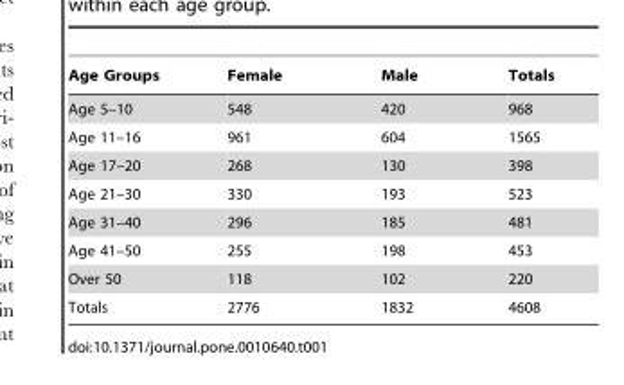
<table><thead><tr><td>Age Groups</td><td>Female</td><td>Male</td><td>Totals</td></tr></thead><tbody><tr><td>Age 5–10</td><td>548</td><td>420</td><td>968</td></tr><tr><td>Age 11–16</td><td>961</td><td>604</td><td>1565</td></tr><tr><td>Age 17–20</td><td>268</td><td>130</td><td>398</td></tr><tr><td>Age 21–30</td><td>330</td><td>193</td><td>523</td></tr><tr><td>Age 31–40</td><td>296</td><td>185</td><td>481</td></tr><tr><td>Age 41–50</td><td>255</td><td>198</td><td>453</td></tr><tr><td>Over 50</td><td>118</td><td>102</td><td>220</td></tr><tr><td>Totals</td><td>2776</td><td>1832</td><td>4608</td></tr></tbody></table>